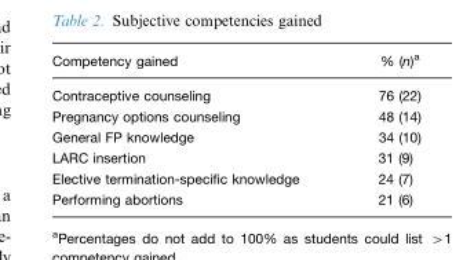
<table><thead><tr><td>Competency gained</td><td>% (n)<sup>a</sup></td></tr></thead><tbody><tr><td>Contraceptive counseling</td><td>76 (22)</td></tr><tr><td>Pregnancy options counseling</td><td>48 (14)</td></tr><tr><td>General FP knowledge</td><td>34 (10)</td></tr><tr><td>LARC insertion</td><td>31 (9)</td></tr><tr><td>Elective termination-specific knowledge</td><td>24 (7)</td></tr><tr><td>Performing abortions</td><td>21 (6)</td></tr></tbody></table>